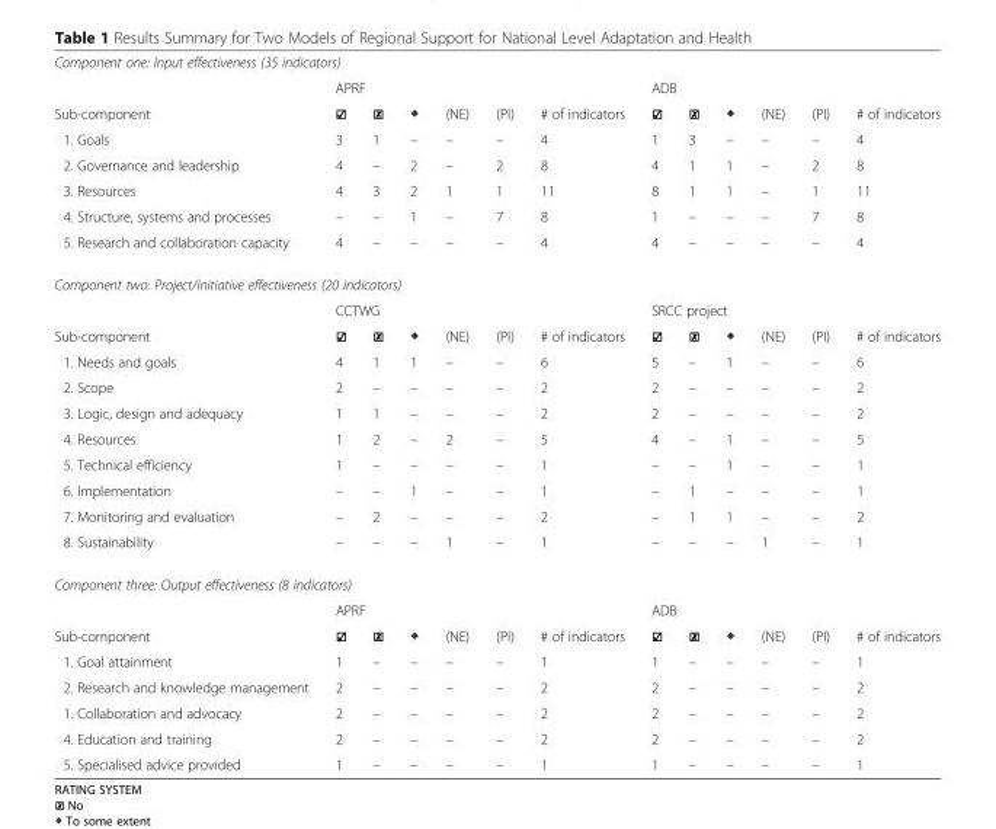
<table><tbody><tr><td colspan="13">Component one: Input effectiveness (35 indicators)</td></tr><tr><td></td><td colspan="6">APRF</td><td colspan="6">ADB</td></tr><tr><td>Sub-component</td><td>☑</td><td>☒</td><td>◈</td><td>(NE)</td><td>(PI)</td><td># of indicators</td><td>☑</td><td>☒</td><td>◈</td><td>(NE)</td><td>(PI)</td><td># of indicators</td></tr><tr><td>1. Goals</td><td>3</td><td>1</td><td>–</td><td>–</td><td>–</td><td>4</td><td>1</td><td>3</td><td>–</td><td>–</td><td>–</td><td>4</td></tr><tr><td>2. Governance and leadership</td><td>4</td><td>–</td><td>2</td><td>–</td><td>2</td><td>8</td><td>4</td><td>1</td><td>1</td><td>–</td><td>2</td><td>8</td></tr><tr><td>3. Resources</td><td>4</td><td>3</td><td>2</td><td>1</td><td>1</td><td>11</td><td>8</td><td>1</td><td>1</td><td>–</td><td>1</td><td>11</td></tr><tr><td>4. Structure, systems and processes</td><td>–</td><td>–</td><td>1</td><td>–</td><td>7</td><td>8</td><td>1</td><td>–</td><td>–</td><td>–</td><td>7</td><td>8</td></tr><tr><td>5. Research and collaboration capacity</td><td>4</td><td>–</td><td>–</td><td>–</td><td>–</td><td>4</td><td>4</td><td>–</td><td>–</td><td>–</td><td>–</td><td>4</td></tr><tr><td colspan="13">Component two: Project/initiative effectiveness (20 indicators)</td></tr><tr><td></td><td colspan="6">CCTWG</td><td colspan="6">SRCC project</td></tr><tr><td>Sub-component</td><td>☑</td><td>☒</td><td>◈</td><td>(NE)</td><td>(PI)</td><td># of indicators</td><td>☑</td><td>☒</td><td>◈</td><td>(NE)</td><td>(PI)</td><td># of indicators</td></tr><tr><td>1. Needs and goals</td><td>4</td><td>1</td><td>1</td><td>–</td><td>–</td><td>6</td><td>5</td><td>–</td><td>1</td><td>–</td><td>–</td><td>6</td></tr><tr><td>2. Scope</td><td>2</td><td>–</td><td>–</td><td>–</td><td>–</td><td>2</td><td>2</td><td>–</td><td>–</td><td>–</td><td>–</td><td>2</td></tr><tr><td>3. Logic, design and adequacy</td><td>1</td><td>1</td><td>–</td><td>–</td><td>–</td><td>2</td><td>2</td><td>–</td><td>–</td><td>–</td><td>–</td><td>2</td></tr><tr><td>4. Resources</td><td>1</td><td>2</td><td>–</td><td>2</td><td>–</td><td>5</td><td>4</td><td>–</td><td>1</td><td>–</td><td>–</td><td>5</td></tr><tr><td>5. Technical efficiency</td><td>1</td><td>–</td><td>–</td><td>–</td><td>–</td><td>1</td><td>–</td><td>–</td><td>1</td><td>–</td><td>–</td><td>1</td></tr><tr><td>6. Implementation</td><td>–</td><td>–</td><td>1</td><td>–</td><td>–</td><td>1</td><td>–</td><td>1</td><td>–</td><td>–</td><td>–</td><td>1</td></tr><tr><td>7. Monitoring and evaluation</td><td>–</td><td>2</td><td>–</td><td>–</td><td>–</td><td>2</td><td>–</td><td>1</td><td>1</td><td>–</td><td>–</td><td>2</td></tr><tr><td>8. Sustainability</td><td>–</td><td>–</td><td>–</td><td>1</td><td>–</td><td>1</td><td>–</td><td>–</td><td>–</td><td>1</td><td>–</td><td>1</td></tr><tr><td colspan="13">Component three: Output effectiveness (8 indicators)</td></tr><tr><td></td><td colspan="6">APRF</td><td colspan="6">ADB</td></tr><tr><td>Sub-component</td><td>☑</td><td>☒</td><td>◈</td><td>(NE)</td><td>(PI)</td><td># of indicators</td><td>☑</td><td>☒</td><td>◈</td><td>(NE)</td><td>(PI)</td><td># of indicators</td></tr><tr><td>1. Goal attainment</td><td>1</td><td>–</td><td>–</td><td>–</td><td>–</td><td>1</td><td>1</td><td>–</td><td>–</td><td>–</td><td>–</td><td>1</td></tr><tr><td>2. Research and knowledge management</td><td>2</td><td>–</td><td>–</td><td>–</td><td>–</td><td>2</td><td>2</td><td>–</td><td>–</td><td>–</td><td>–</td><td>2</td></tr><tr><td>1. Collaboration and advocacy</td><td>2</td><td>–</td><td>–</td><td>–</td><td>–</td><td>2</td><td>2</td><td>–</td><td>–</td><td>–</td><td>–</td><td>2</td></tr><tr><td>4. Education and training</td><td>2</td><td>–</td><td>–</td><td>–</td><td>–</td><td>2</td><td>2</td><td>–</td><td>–</td><td>–</td><td>–</td><td>2</td></tr><tr><td>5. Specialised advice provided</td><td>1</td><td>–</td><td>–</td><td>–</td><td>–</td><td>1</td><td>1</td><td>–</td><td>–</td><td>–</td><td>–</td><td>1</td></tr></tbody></table>